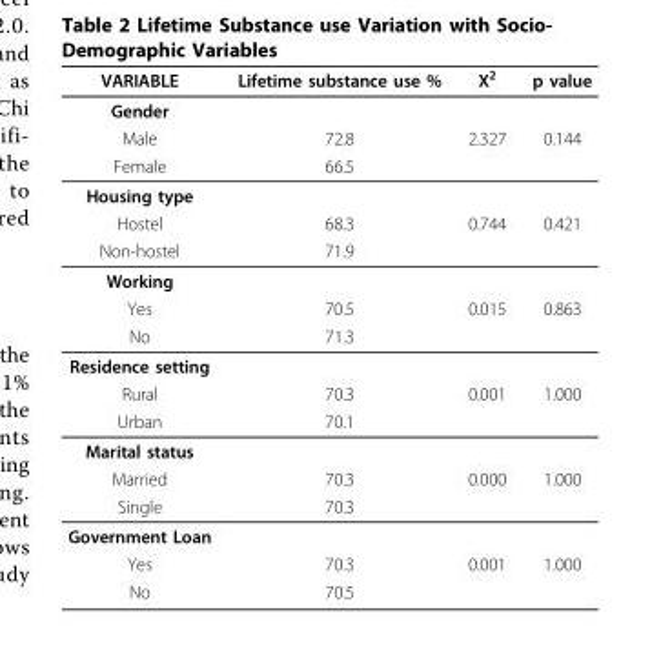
<table><thead><tr><td>VARIABLE</td><td>Lifetime substance use %</td><td>X<sup>2</sup></td><td>p value</td></tr></thead><tbody><tr><td colspan="4">Gender</td></tr><tr><td>Male</td><td>72.8</td><td>2.327</td><td>0.144</td></tr><tr><td>Female</td><td>66.5</td><td></td><td></td></tr><tr><td colspan="4">Housing type</td></tr><tr><td>Hostel</td><td>68.3</td><td>0.744</td><td>0.421</td></tr><tr><td>Non-hostel</td><td>71.9</td><td></td><td></td></tr><tr><td colspan="4">Working</td></tr><tr><td>Yes</td><td>70.5</td><td>0.015</td><td>0.863</td></tr><tr><td>No</td><td>71.3</td><td></td><td></td></tr><tr><td colspan="4">Residence setting</td></tr><tr><td>Rural</td><td>70.3</td><td>0.001</td><td>1.000</td></tr><tr><td>Urban</td><td>70.1</td><td></td><td></td></tr><tr><td colspan="4">Marital status</td></tr><tr><td>Married</td><td>70.3</td><td>0.000</td><td>1.000</td></tr><tr><td>Single</td><td>70.3</td><td></td><td></td></tr><tr><td colspan="4">Government Loan</td></tr><tr><td>Yes</td><td>70.3</td><td>0.001</td><td>1.000</td></tr><tr><td>No</td><td>70.5</td><td></td><td></td></tr></tbody></table>